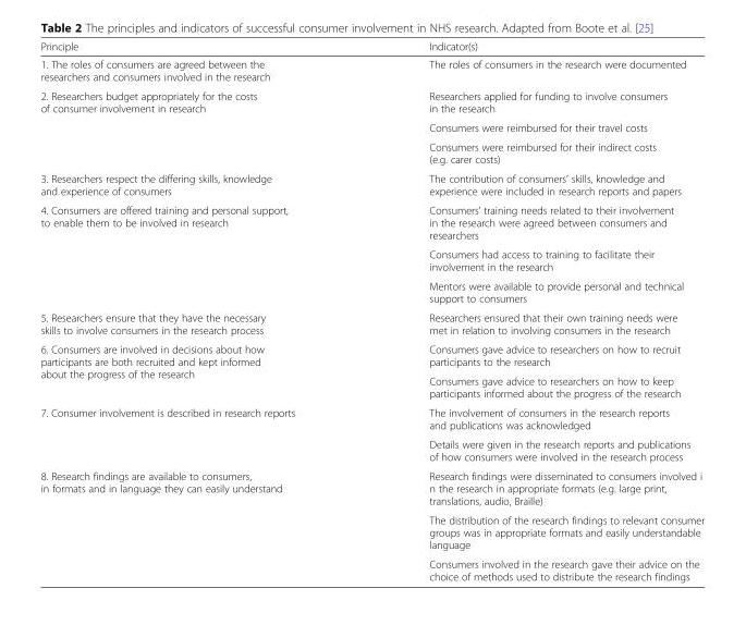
<table><thead><tr><td>Principle</td><td>Indicator(s)</td></tr></thead><tbody><tr><td>1. The roles of consumers are agreed between the researchers and consumers involved in the research</td><td>The roles of consumers in the research were documented</td></tr><tr><td rowspan="3">2. Researchers budget appropriately for the costs of consumer involvement in research</td><td>Researchers applied for funding to involve consumers in the research</td></tr><tr><td>Consumers were reimbursed for their travel costs</td></tr><tr><td>Consumers were reimbursed for their indirect costs (e.g. carer costs)</td></tr><tr><td>3. Researchers respect the differing skills, knowledge and experience of consumers</td><td>The contribution of consumers’ skills, knowledge and experience were included in research reports and papers</td></tr><tr><td rowspan="3">4. Consumers are offered training and personal support, to enable them to be involved in research</td><td>Consumers’ training needs related to their involvement in the research were agreed between consumers and researchers</td></tr><tr><td>Consumers had access to training to facilitate their involvement in the research</td></tr><tr><td>Mentors were available to provide personal and technical support to consumers</td></tr><tr><td>5. Researchers ensure that they have the necessary skills to involve consumers in the research process</td><td>Researchers ensured that their own training needs were met in relation to involving consumers in the research</td></tr><tr><td rowspan="2">6. Consumers are involved in decisions about how participants are both recruited and kept informed about the progress of the research</td><td>Consumers gave advice to researchers on how to recruit participants to the research</td></tr><tr><td>Consumers gave advice to researchers on how to keep participants informed about the progress of the research</td></tr><tr><td rowspan="2">7. Consumer involvement is described in research reports</td><td>The involvement of consumers in the research reports and publications was acknowledged</td></tr><tr><td>Details were given in the research reports and publications of how consumers were involved in the research process</td></tr><tr><td rowspan="3">8. Research findings are available to consumers, in formats and in language they can easily understand</td><td>Research findings were disseminated to consumers involved i n the research in appropriate formats (e.g. large print, translations, audio, Braille)</td></tr><tr><td>The distribution of the research findings to relevant consumer groups was in appropriate formats and easily understandable language</td></tr><tr><td>Consumers involved in the research gave their advice on the choice of methods used to distribute the research findings</td></tr></tbody></table>